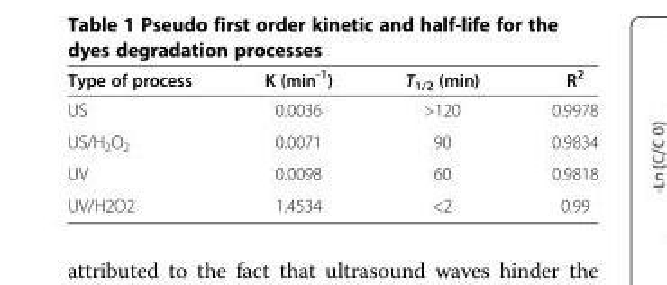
<table><thead><tr><td>Type of process</td><td>K (min<sup>-1</sup>)</td><td>T<sub>1/2</sub> (min)</td><td>R<sup>2</sup></td></tr></thead><tbody><tr><td>US</td><td>0.0036</td><td>&gt;120</td><td>0.9978</td></tr><tr><td>US/H<sub>2</sub>O<sub>2</sub></td><td>0.0071</td><td>90</td><td>0.9834</td></tr><tr><td>UV</td><td>0.0098</td><td>60</td><td>0.9818</td></tr><tr><td>UV/H2O2</td><td>1.4534</td><td>&lt;2</td><td>0.99</td></tr></tbody></table>